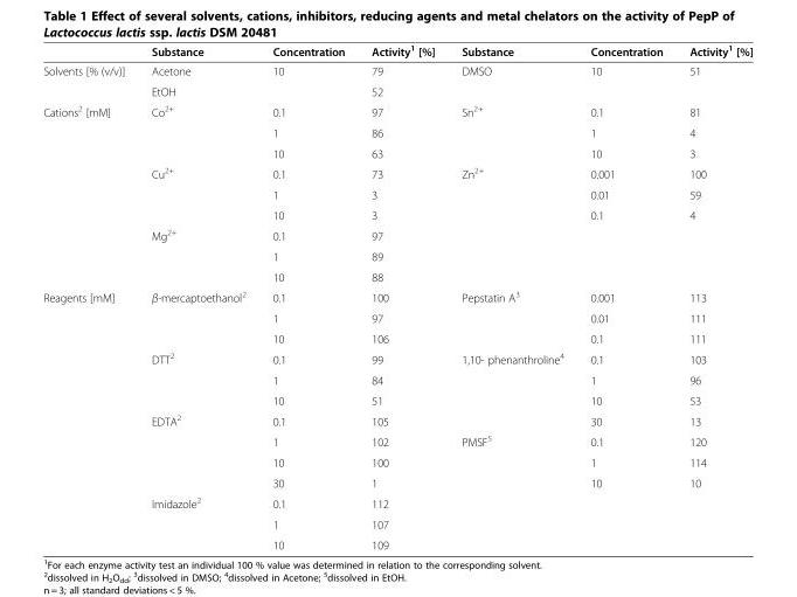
<table><thead><tr><td></td><td>Substance</td><td>Concentration</td><td>Activity<sup>1</sup> [%]</td><td>Substance</td><td>Concentration</td><td>Activity<sup>1</sup> [%]</td></tr></thead><tbody><tr><td rowspan="2">Solvents [% (v/v)]</td><td>Acetone</td><td rowspan="2">10</td><td>79</td><td>DMSO</td><td>10</td><td>51</td></tr><tr><td>EtOH</td><td>52</td><td></td><td></td><td></td></tr><tr><td rowspan="9">Cations<sup>2</sup> [mM]</td><td rowspan="3">Co<sup>2+</sup></td><td>0.1</td><td>97</td><td rowspan="3">Sn<sup>2+</sup></td><td>0.1</td><td>81</td></tr><tr><td>1</td><td>86</td><td>1</td><td>4</td></tr><tr><td>10</td><td>63</td><td>10</td><td>3</td></tr><tr><td rowspan="3">Cu<sup>2+</sup></td><td>0.1</td><td>73</td><td rowspan="3">Zn<sup>2+</sup></td><td>0.001</td><td>100</td></tr><tr><td>1</td><td>3</td><td>0.01</td><td>59</td></tr><tr><td>10</td><td>3</td><td>0.1</td><td>4</td></tr><tr><td rowspan="3">Mg<sup>2+</sup></td><td>0.1</td><td>97</td><td rowspan="3"></td><td></td><td></td></tr><tr><td>1</td><td>89</td><td></td><td></td></tr><tr><td>10</td><td>88</td><td></td><td></td></tr><tr><td rowspan="13">Reagents [mM]</td><td rowspan="3">β-mercaptoethanol<sup>2</sup></td><td>0.1</td><td>100</td><td rowspan="3">Pepstatin A<sup>3</sup></td><td>0.001</td><td>113</td></tr><tr><td>1</td><td>97</td><td>0.01</td><td>111</td></tr><tr><td>10</td><td>106</td><td>0.1</td><td>111</td></tr><tr><td rowspan="3">DTT<sup>2</sup></td><td>0.1</td><td>99</td><td rowspan="4">1,10- phenanthroline<sup>4</sup></td><td>0.1</td><td>103</td></tr><tr><td>1</td><td>84</td><td>1</td><td>96</td></tr><tr><td>10</td><td>51</td><td>10</td><td>53</td></tr><tr><td rowspan="4">EDTA<sup>2</sup></td><td>0.1</td><td>105</td><td>30</td><td>13</td></tr><tr><td>1</td><td>102</td><td rowspan="3">PMSF<sup>5</sup></td><td>0.1</td><td>120</td></tr><tr><td>10</td><td>100</td><td>1</td><td>114</td></tr><tr><td>30</td><td>1</td><td>10</td><td>10</td></tr><tr><td rowspan="2">Imidazole<sup>2</sup></td><td>0.1</td><td>112</td><td></td><td></td><td></td></tr><tr><td>1</td><td>107</td><td></td><td></td><td></td></tr><tr><td></td><td>10</td><td>109</td><td></td><td></td><td></td></tr></tbody></table>